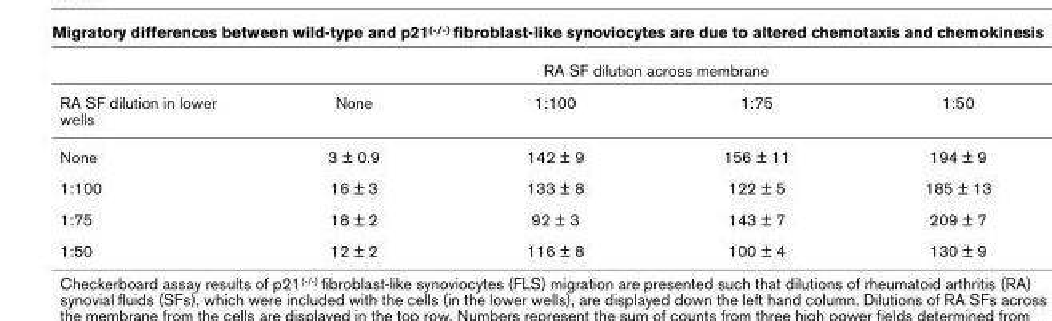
<table><thead><tr><td rowspan="2">RA SF dilution in lower wells</td><td colspan="4">RA SF dilution across membrane</td></tr><tr><td>None</td><td>1:100</td><td>1:75</td><td>1:50</td></tr></thead><tbody><tr><td>None</td><td>3 ± 0.9</td><td>142 ± 9</td><td>156 ± 11</td><td>194 ± 9</td></tr><tr><td>1:100</td><td>16 ± 3</td><td>133 ± 8</td><td>122 ± 5</td><td>185 ± 13</td></tr><tr><td>1:75</td><td>18 ± 2</td><td>92 ± 3</td><td>143 ± 7</td><td>209 ± 7</td></tr><tr><td>1:50</td><td>12 ± 2</td><td>116 ± 8</td><td>100 ± 4</td><td>130 ± 9</td></tr></tbody></table>